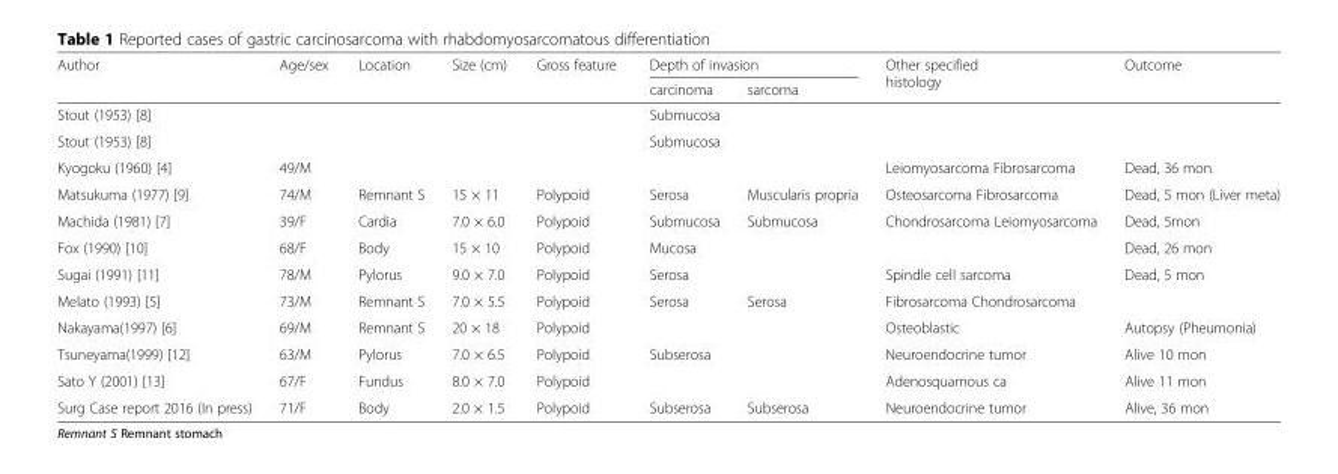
<table><thead><tr><td rowspan="2">Author</td><td rowspan="2">Age/sex</td><td rowspan="2">Location</td><td rowspan="2">Size (cm)</td><td rowspan="2">Gross feature</td><td colspan="2">Depth of invasion</td><td rowspan="2">Other specified histology</td><td rowspan="2">Outcome</td></tr><tr><td>carcinoma</td><td>sarcoma</td></tr></thead><tbody><tr><td>Stout (1953) [8]</td><td></td><td></td><td></td><td></td><td>Submucosa</td><td></td><td></td><td></td></tr><tr><td>Stout (1953) [8]</td><td></td><td></td><td></td><td></td><td>Submucosa</td><td></td><td></td><td></td></tr><tr><td>Kyogoku (1960) [4]</td><td>49/M</td><td></td><td></td><td></td><td></td><td></td><td>Leiomyosarcoma Fibrosarcoma</td><td>Dead, 36 mon</td></tr><tr><td>Matsukuma (1977) [9]</td><td>74/M</td><td>Remnant S</td><td>15 × 11</td><td>Polypoid</td><td>Serosa</td><td>Muscularis propria</td><td>Osteosarcoma Fibrosarcoma</td><td>Dead, 5 mon (Liver meta)</td></tr><tr><td>Machida (1981) [7]</td><td>39/F</td><td>Cardia</td><td>7.0 × 6.0</td><td>Polypoid</td><td>Submucosa</td><td>Submucosa</td><td>Chondrosarcoma Leiomyosarcoma</td><td>Dead, 5mon</td></tr><tr><td>Fox (1990) [10]</td><td>68/F</td><td>Body</td><td>15 × 10</td><td>Polypoid</td><td>Mucosa</td><td></td><td></td><td>Dead, 26 mon</td></tr><tr><td>Sugai (1991) [11]</td><td>78/M</td><td>Pylorus</td><td>9.0 × 7.0</td><td>Polypoid</td><td>Serosa</td><td></td><td>Spindle cell sarcoma</td><td>Dead, 5 mon</td></tr><tr><td>Melato (1993) [5]</td><td>73/M</td><td>Remnant S</td><td>7.0 × 5.5</td><td>Polypoid</td><td>Serosa</td><td>Serosa</td><td>Fibrosarcoma Chondrosarcoma</td><td></td></tr><tr><td>Nakayama(1997) [6]</td><td>69/M</td><td>Remnant S</td><td>20 × 18</td><td>Polypoid</td><td></td><td></td><td>Osteoblastic</td><td>Autopsy (Pheumonia)</td></tr><tr><td>Tsuneyama(1999) [12]</td><td>63/M</td><td>Pylorus</td><td>7.0 × 6.5</td><td>Polypoid</td><td>Subserosa</td><td></td><td>Neuroendocrine tumor</td><td>Alive 10 mon</td></tr><tr><td>Sato Y (2001) [13]</td><td>67/F</td><td>Fundus</td><td>8.0 × 7.0</td><td>Polypoid</td><td></td><td></td><td>Adenosquamous ca</td><td>Alive 11 mon</td></tr><tr><td>Surg Case report 2016 (In press)</td><td>71/F</td><td>Body</td><td>2.0 × 1.5</td><td>Polypoid</td><td>Subserosa</td><td>Subserosa</td><td>Neuroendocrine tumor</td><td>Alive, 36 mon</td></tr></tbody></table>